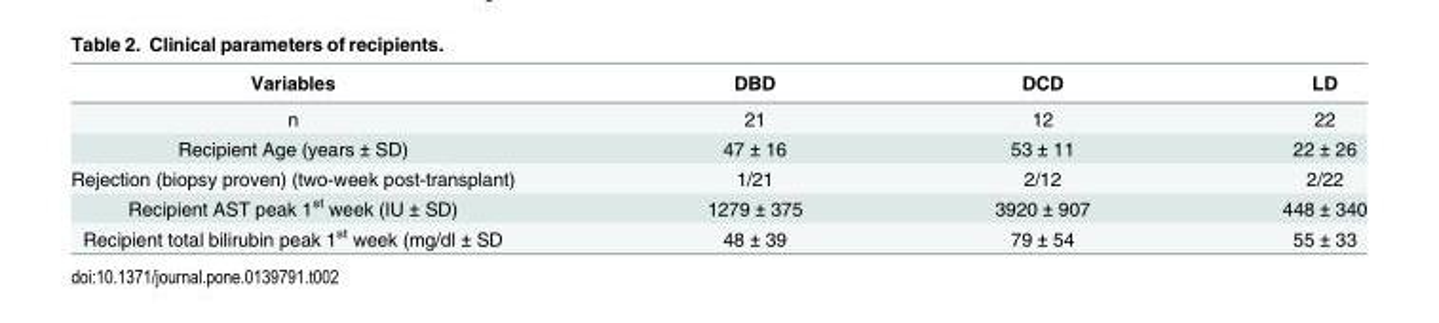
<table><thead><tr><td>Variables</td><td>DBD</td><td>DCD</td><td>LD</td></tr></thead><tbody><tr><td>n</td><td>21</td><td>12</td><td>22</td></tr><tr><td>Recipient Age (years ± SD)</td><td>47 ± 16</td><td>53 ± 11</td><td>22 ± 26</td></tr><tr><td>Rejection (biopsy proven) (two-week post-transplant)</td><td>1/21</td><td>2/12</td><td>2/22</td></tr><tr><td>Recipient AST peak 1<sup>st</sup> week (IU ± SD)</td><td>1279 ± 375</td><td>3920 ± 907</td><td>448 ± 340</td></tr><tr><td>Recipient total bilirubin peak 1<sup>st</sup> week (mg/dl ± SD</td><td>48 ± 39</td><td>79 ± 54</td><td>55 ± 33</td></tr></tbody></table>